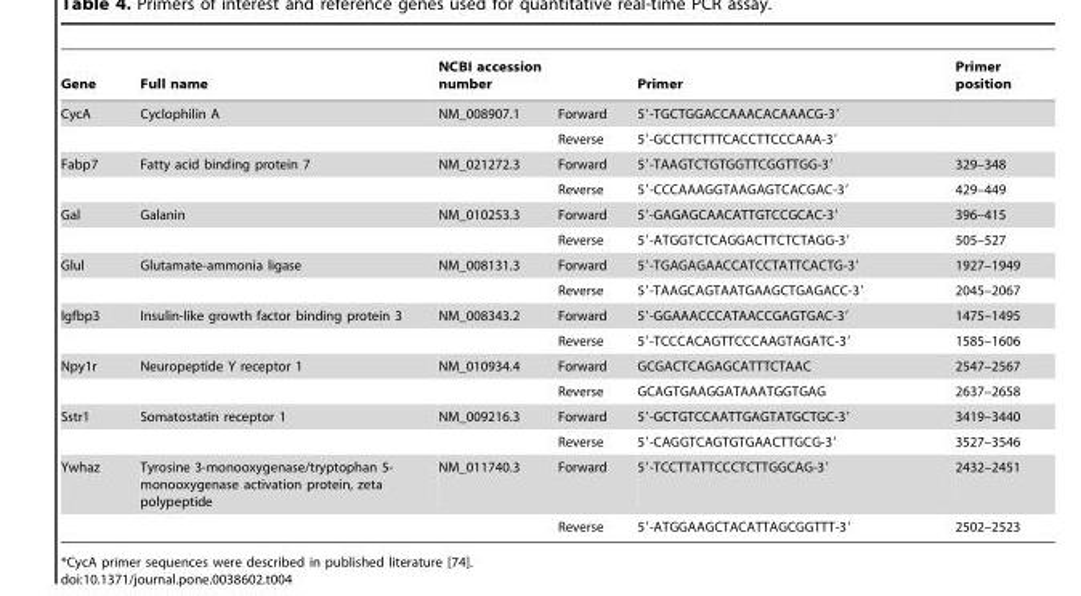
<table><thead><tr><td>Gene</td><td>Full name</td><td>NCBI accession number</td><td></td><td>Primer</td><td>Primer position</td></tr></thead><tbody><tr><td rowspan="2">CycA</td><td>Cyclophilin A</td><td>NM_008907.1</td><td>Forward</td><td>5′-TGCTGGACCAAACACAAACG-3′</td><td></td></tr><tr><td></td><td></td><td>Reverse</td><td>5′-GCCTTCTTTCACCTTCCCAAA-3′</td><td></td></tr><tr><td rowspan="2">Fabp7</td><td>Fatty acid binding protein 7</td><td>NM_021272.3</td><td>Forward</td><td>5′-TAAGTCTGTGGTTCGGTTGG-3′</td><td>329–348</td></tr><tr><td></td><td></td><td>Reverse</td><td>5′-CCCAAAGGTAAGAGTCACGAC-3′</td><td>429–449</td></tr><tr><td rowspan="2">Gal</td><td>Galanin</td><td>NM_010253.3</td><td>Forward</td><td>5′-GAGAGCAACATTGTCCGCAC-3′</td><td>396–415</td></tr><tr><td></td><td></td><td>Reverse</td><td>5′-ATGGTCTCAGGACTTCTCTAGG-3′</td><td>505–527</td></tr><tr><td rowspan="2">Glul</td><td>Glutamate-ammonia ligase</td><td>NM_008131.3</td><td>Forward</td><td>5′-TGAGAGAACCATCCTATTCACTG-3′</td><td>1927–1949</td></tr><tr><td></td><td></td><td>Reverse</td><td>5′-TAAGCAGTAATGAAGCTGAGACC-3′</td><td>2045–2067</td></tr><tr><td rowspan="2">Igfbp3</td><td>Insulin-like growth factor binding protein 3</td><td>NM_008343.2</td><td>Forward</td><td>5′-GGAAACCCATAACCGAGTGAC-3′</td><td>1475–1495</td></tr><tr><td></td><td></td><td>Reverse</td><td>5′-TCCCACAGTTCCCAAGTAGATC-3′</td><td>1585–1606</td></tr><tr><td rowspan="2">Npy1r</td><td>Neuropeptide Y receptor 1</td><td>NM_010934.4</td><td>Forward</td><td>GCGACTCAGAGCATTTCTAAC</td><td>2547–2567</td></tr><tr><td></td><td></td><td>Reverse</td><td>GCAGTGAAGGATAAATGGTGAG</td><td>2637–2658</td></tr><tr><td rowspan="2">Sstr1</td><td>Somatostatin receptor 1</td><td>NM_009216.3</td><td>Forward</td><td>5′-GCTGTCCAATTGAGTATGCTGC-3′</td><td>3419–3440</td></tr><tr><td></td><td></td><td>Reverse</td><td>5′-CAGGTCAGTGTGAACTTGCG-3′</td><td>3527–3546</td></tr><tr><td rowspan="2">Ywhaz</td><td>Tyrosine 3-monooxygenase/tryptophan 5- monooxygenase activation protein, zeta polypeptide</td><td>NM_011740.3</td><td>Forward</td><td>5′-TCCTTATTCCCTCTTGGCAG-3′</td><td>2432–2451</td></tr><tr><td></td><td></td><td>Reverse</td><td>5′-ATGGAAGCTACATTAGCGGTTT-3′</td><td>2502–2523</td></tr></tbody></table>